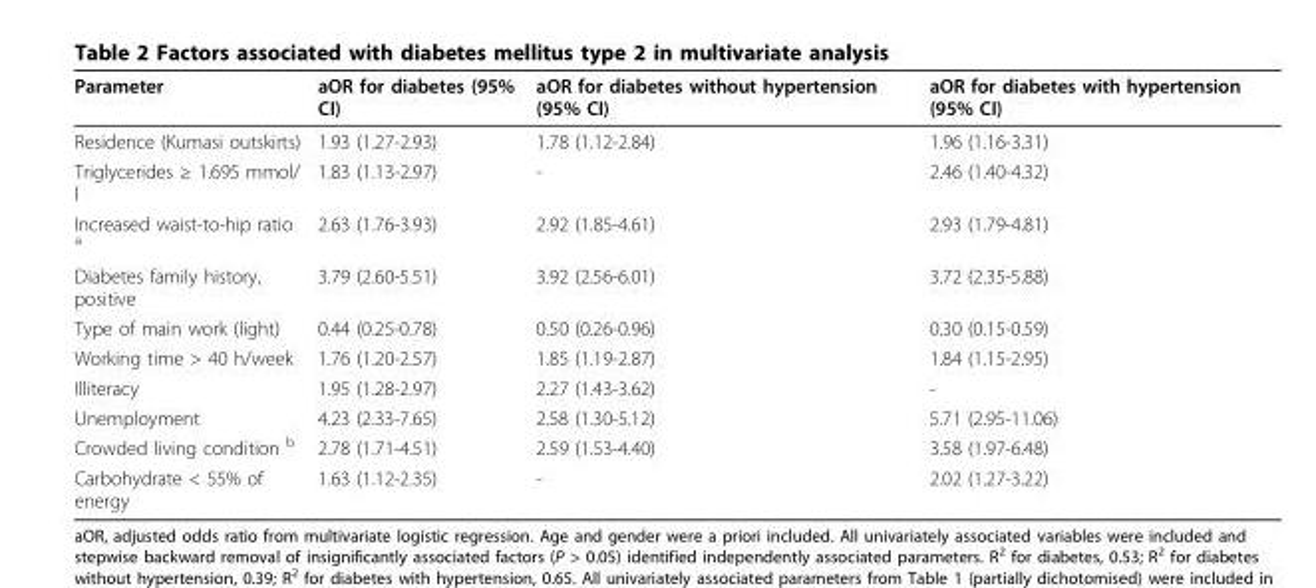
<table><thead><tr><td>Parameter</td><td>aOR for diabetes (95% CI)</td><td>aOR for diabetes without hypertension (95% CI)</td><td>aOR for diabetes with hypertension (95% CI)</td></tr></thead><tbody><tr><td>Residence (Kumasi outskirts)</td><td>1.93 (1.27-2.93)</td><td>1.78 (1.12-2.84)</td><td>1.96 (1.16-3.31)</td></tr><tr><td>Triglycerides ≥ 1.695 mmol/ l</td><td>1.83 (1.13-2.97)</td><td>-</td><td>2.46 (1.40-4.32)</td></tr><tr><td>Increased waist-to-hip ratio <sup>a</sup></td><td>2.63 (1.76-3.93)</td><td>2.92 (1.85-4.61)</td><td>2.93 (1.79-4.81)</td></tr><tr><td>Diabetes family history, positive</td><td>3.79 (2.60-5.51)</td><td>3.92 (2.56-6.01)</td><td>3.72 (2.35-5.88)</td></tr><tr><td>Type of main work (light)</td><td>0.44 (0.25-0.78)</td><td>0.50 (0.26-0.96)</td><td>0.30 (0.15-0.59)</td></tr><tr><td>Working time &gt; 40 h/week</td><td>1.76 (1.20-2.57)</td><td>1.85 (1.19-2.87)</td><td>1.84 (1.15-2.95)</td></tr><tr><td>Illiteracy</td><td>1.95 (1.28-2.97)</td><td>2.27 (1.43-3.62)</td><td>-</td></tr><tr><td>Unemployment</td><td>4.23 (2.33-7.65)</td><td>2.58 (1.30-5.12)</td><td>5.71 (2.95-11.06)</td></tr><tr><td>Crowded living condition <sup>b</sup></td><td>2.78 (1.71-4.51)</td><td>2.59 (1.53-4.40)</td><td>3.58 (1.97-6.48)</td></tr><tr><td>Carbohydrate &lt; 55% of energy</td><td>1.63 (1.12-2.35)</td><td>-</td><td>2.02 (1.27-3.22)</td></tr></tbody></table>